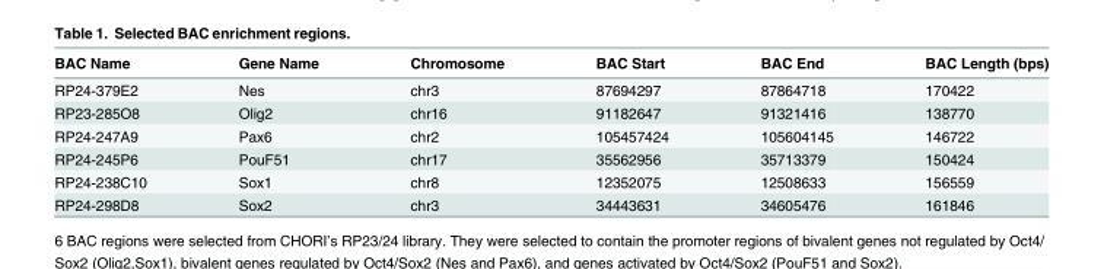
<table><thead><tr><td>BAC Name</td><td>Gene Name</td><td>Chromosome</td><td>BAC Start</td><td>BAC End</td><td>BAC Length (bps)</td></tr></thead><tbody><tr><td>RP24-379E2</td><td>Nes</td><td>chr3</td><td>87694297</td><td>87864718</td><td>170422</td></tr><tr><td>RP23-285O8</td><td>Olig2</td><td>chr16</td><td>91182647</td><td>91321416</td><td>138770</td></tr><tr><td>RP24-247A9</td><td>Pax6</td><td>chr2</td><td>105457424</td><td>105604145</td><td>146722</td></tr><tr><td>RP24-245P6</td><td>PouF51</td><td>chr17</td><td>35562956</td><td>35713379</td><td>150424</td></tr><tr><td>RP24-238C10</td><td>Sox1</td><td>chr8</td><td>12352075</td><td>12508633</td><td>156559</td></tr><tr><td>RP24-298D8</td><td>Sox2</td><td>chr3</td><td>34443631</td><td>34605476</td><td>161846</td></tr></tbody></table>